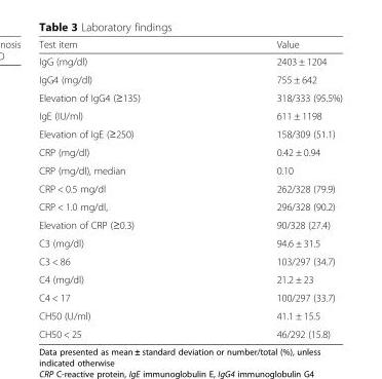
<table><thead><tr><td>Test item</td><td>Value</td></tr></thead><tbody><tr><td>IgG (mg/dl)</td><td>2403 ± 1204</td></tr><tr><td>IgG4 (mg/dl)</td><td>755 ± 642</td></tr><tr><td>Elevation of IgG4 (≥135)</td><td>318/333 (95.5%)</td></tr><tr><td>IgE (IU/ml)</td><td>611 ± 1198</td></tr><tr><td>Elevation of IgE (≥250)</td><td>158/309 (51.1)</td></tr><tr><td>CRP (mg/dl)</td><td>0.42 ± 0.94</td></tr><tr><td>CRP (mg/dl), median</td><td>0.10</td></tr><tr><td>CRP &lt; 0.5 mg/dl</td><td>262/328 (79.9)</td></tr><tr><td>CRP &lt; 1.0 mg/dl,</td><td>296/328 (90.2)</td></tr><tr><td>Elevation of CRP (≥0.3)</td><td>90/328 (27.4)</td></tr><tr><td>C3 (mg/dl)</td><td>94.6 ± 31.5</td></tr><tr><td>C3 &lt; 86</td><td>103/297 (34.7)</td></tr><tr><td>C4 (mg/dl)</td><td>21.2 ± 23</td></tr><tr><td>C4 &lt; 17</td><td>100/297 (33.7)</td></tr><tr><td>CH50 (U/ml)</td><td>41.1 ± 15.5</td></tr><tr><td>CH50 &lt; 25</td><td>46/292 (15.8)</td></tr></tbody></table>